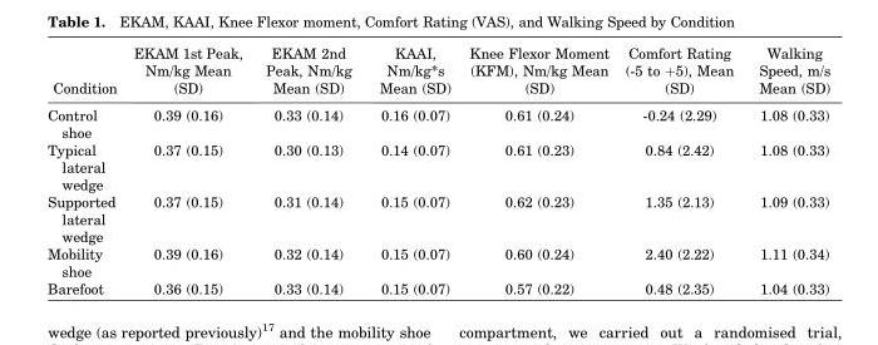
<table><thead><tr><td>Condition</td><td>EKAM 1st Peak, Nm/kg Mean (SD)</td><td>EKAM 2nd Peak, Nm/kg Mean (SD)</td><td>KAAI, Nm/kg*s Mean (SD)</td><td>Knee Flexor Moment (KFM), Nm/kg Mean (SD)</td><td>Comfort Rating (-5 to +5), Mean (SD)</td><td>Walking Speed, m/s Mean (SD)</td></tr></thead><tbody><tr><td>Control shoe</td><td>0.39 (0.16)</td><td>0.33 (0.14)</td><td>0.16 (0.07)</td><td>0.61 (0.24)</td><td>-0.24 (2.29)</td><td>1.08 (0.33)</td></tr><tr><td>Typical lateral wedge</td><td>0.37 (0.15)</td><td>0.30 (0.13)</td><td>0.14 (0.07)</td><td>0.61 (0.23)</td><td>0.84 (2.42)</td><td>1.08 (0.33)</td></tr><tr><td>Supported lateral wedge</td><td>0.37 (0.15)</td><td>0.31 (0.14)</td><td>0.15 (0.07)</td><td>0.62 (0.23)</td><td>1.35 (2.13)</td><td>1.09 (0.33)</td></tr><tr><td>Mobility shoe</td><td>0.39 (0.16)</td><td>0.32 (0.14)</td><td>0.15 (0.07)</td><td>0.60 (0.24)</td><td>2.40 (2.22)</td><td>1.11 (0.34)</td></tr><tr><td>Barefoot</td><td>0.36 (0.15)</td><td>0.33 (0.14)</td><td>0.15 (0.07)</td><td>0.57 (0.22)</td><td>0.48 (2.35)</td><td>1.04 (0.33)</td></tr></tbody></table>